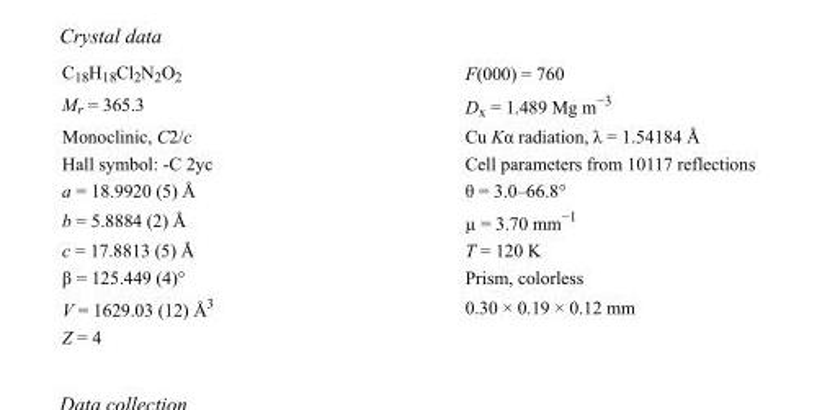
<table><tbody><tr><td>C<sub>18</sub>H<sub>18</sub>Cl<sub>2</sub>N<sub>2</sub>O<sub>2</sub></td><td>F(000) = 760</td></tr><tr><td>M<sub>r</sub> = 365.3</td><td>D<sub>x</sub> = 1.489 Mg m<sup>−3</sup></td></tr><tr><td>Monoclinic, C2/c</td><td>Cu Kα radiation, λ = 1.54184 Å</td></tr><tr><td>Hall symbol: -C 2yc</td><td>Cell parameters from 10117 reflections</td></tr><tr><td>a = 18.9920 (5) Å</td><td>θ = 3.0–66.8°</td></tr><tr><td>b = 5.8884 (2) Å</td><td>µ = 3.70 mm<sup>−1</sup></td></tr><tr><td>c = 17.8813 (5) Å</td><td>T = 120 K</td></tr><tr><td>β = 125.449 (4)°</td><td>Prism, colorless</td></tr><tr><td>V = 1629.03 (12) Å<sup>3</sup></td><td>0.30 × 0.19 × 0.12 mm</td></tr><tr><td>Z = 4</td><td></td></tr></tbody></table>